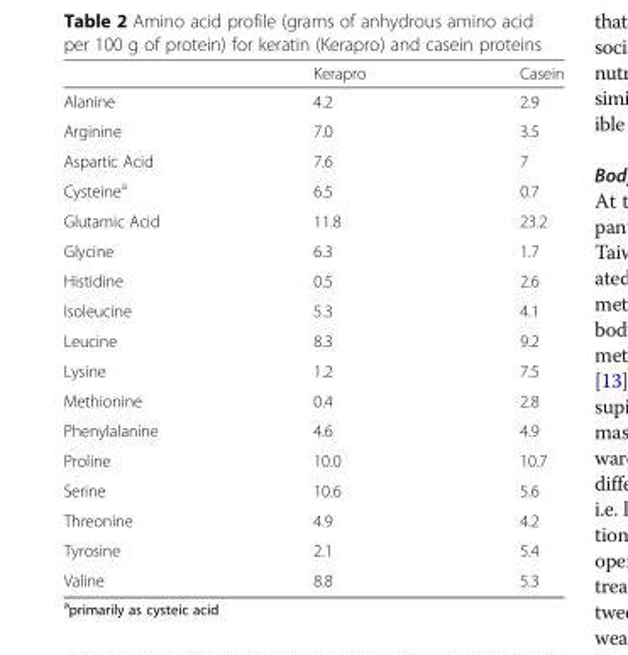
<table><thead><tr><td></td><td>Kerapro</td><td>Casein</td></tr></thead><tbody><tr><td>Alanine</td><td>4.2</td><td>2.9</td></tr><tr><td>Arginine</td><td>7.0</td><td>3.5</td></tr><tr><td>Aspartic Acid</td><td>7.6</td><td>7</td></tr><tr><td>Cysteine<sup>a</sup></td><td>6.5</td><td>0.7</td></tr><tr><td>Glutamic Acid</td><td>11.8</td><td>23.2</td></tr><tr><td>Glycine</td><td>6.3</td><td>1.7</td></tr><tr><td>Histidine</td><td>0.5</td><td>2.6</td></tr><tr><td>Isoleucine</td><td>5.3</td><td>4.1</td></tr><tr><td>Leucine</td><td>8.3</td><td>9.2</td></tr><tr><td>Lysine</td><td>1.2</td><td>7.5</td></tr><tr><td>Methionine</td><td>0.4</td><td>2.8</td></tr><tr><td>Phenylalanine</td><td>4.6</td><td>4.9</td></tr><tr><td>Proline</td><td>10.0</td><td>10.7</td></tr><tr><td>Serine</td><td>10.6</td><td>5.6</td></tr><tr><td>Threonine</td><td>4.9</td><td>4.2</td></tr><tr><td>Tyrosine</td><td>2.1</td><td>5.4</td></tr><tr><td>Valine</td><td>8.8</td><td>5.3</td></tr></tbody></table>